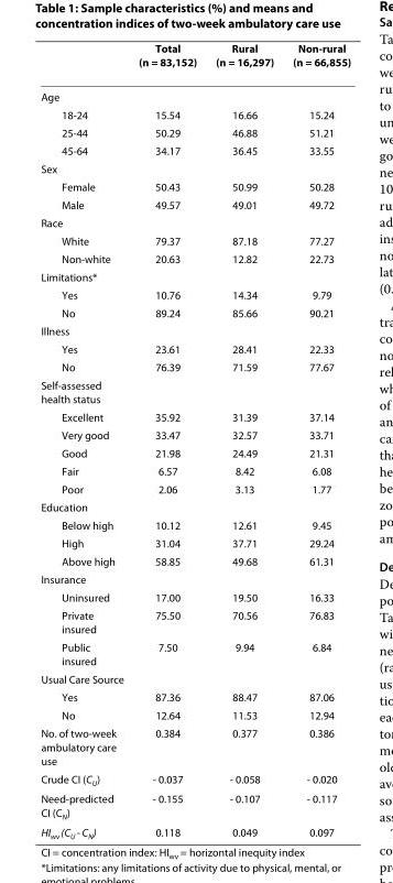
<table><thead><tr><td></td><td>Total (n = 83,152)</td><td>Rural (n = 16,297)</td><td>Non-rural (n = 66,855)</td></tr></thead><tbody><tr><td colspan="4">Age</td></tr><tr><td>18-24</td><td>15.54</td><td>16.66</td><td>15.24</td></tr><tr><td>25-44</td><td>50.29</td><td>46.88</td><td>51.21</td></tr><tr><td>45-64</td><td>34.17</td><td>36.45</td><td>33.55</td></tr><tr><td colspan="4">Sex</td></tr><tr><td>Female</td><td>50.43</td><td>50.99</td><td>50.28</td></tr><tr><td>Male</td><td>49.57</td><td>49.01</td><td>49.72</td></tr><tr><td colspan="4">Race</td></tr><tr><td>White</td><td>79.37</td><td>87.18</td><td>77.27</td></tr><tr><td>Non-white</td><td>20.63</td><td>12.82</td><td>22.73</td></tr><tr><td colspan="4">Limitations*</td></tr><tr><td>Yes</td><td>10.76</td><td>14.34</td><td>9.79</td></tr><tr><td>No</td><td>89.24</td><td>85.66</td><td>90.21</td></tr><tr><td colspan="4">Illness</td></tr><tr><td>Yes</td><td>23.61</td><td>28.41</td><td>22.33</td></tr><tr><td>No</td><td>76.39</td><td>71.59</td><td>77.67</td></tr><tr><td colspan="4">Self-assessed health status</td></tr><tr><td>Excellent</td><td>35.92</td><td>31.39</td><td>37.14</td></tr><tr><td>Very good</td><td>33.47</td><td>32.57</td><td>33.71</td></tr><tr><td>Good</td><td>21.98</td><td>24.49</td><td>21.31</td></tr><tr><td>Fair</td><td>6.57</td><td>8.42</td><td>6.08</td></tr><tr><td>Poor</td><td>2.06</td><td>3.13</td><td>1.77</td></tr><tr><td colspan="4">Education</td></tr><tr><td>Below high</td><td>10.12</td><td>12.61</td><td>9.45</td></tr><tr><td>High</td><td>31.04</td><td>37.71</td><td>29.24</td></tr><tr><td>Above high</td><td>58.85</td><td>49.68</td><td>61.31</td></tr><tr><td colspan="4">Insurance</td></tr><tr><td>Uninsured</td><td>17.00</td><td>19.50</td><td>16.33</td></tr><tr><td>Private insured</td><td>75.50</td><td>70.56</td><td>76.83</td></tr><tr><td>Public insured</td><td>7.50</td><td>9.94</td><td>6.84</td></tr><tr><td colspan="4">Usual Care Source</td></tr><tr><td>Yes</td><td>87.36</td><td>88.47</td><td>87.06</td></tr><tr><td>No</td><td>12.64</td><td>11.53</td><td>12.94</td></tr><tr><td>No. of two-week ambulatory care use</td><td>0.384</td><td>0.377</td><td>0.386</td></tr><tr><td>Crude CI (C<sub>U</sub>)</td><td>- 0.037</td><td>- 0.058</td><td>- 0.020</td></tr><tr><td>Need-predicted CI (C<sub>N</sub>)</td><td>- 0.155</td><td>- 0.107</td><td>- 0.117</td></tr><tr><td>HI<sub>wv</sub> (C<sub>U</sub> - C<sub>N</sub>)</td><td>0.118</td><td>0.049</td><td>0.097</td></tr></tbody></table>